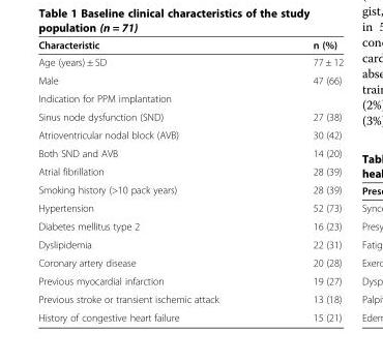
<table><thead><tr><td>Characteristic</td><td>n (%)</td></tr></thead><tbody><tr><td>Age (years) ± SD</td><td>77 ± 12</td></tr><tr><td>Male</td><td>47 (66)</td></tr><tr><td colspan="2">Indication for PPM implantation</td></tr><tr><td>Sinus node dysfunction (SND)</td><td>27 (38)</td></tr><tr><td>Atrioventricular nodal block (AVB)</td><td>30 (42)</td></tr><tr><td>Both SND and AVB</td><td>14 (20)</td></tr><tr><td>Atrial fibrillation</td><td>28 (39)</td></tr><tr><td>Smoking history (&gt;10 pack years)</td><td>28 (39)</td></tr><tr><td>Hypertension</td><td>52 (73)</td></tr><tr><td>Diabetes mellitus type 2</td><td>16 (23)</td></tr><tr><td>Dyslipidemia</td><td>22 (31)</td></tr><tr><td>Coronary artery disease</td><td>20 (28)</td></tr><tr><td>Previous myocardial infarction</td><td>19 (27)</td></tr><tr><td>Previous stroke or transient ischemic attack</td><td>13 (18)</td></tr><tr><td>History of congestive heart failure</td><td>15 (21)</td></tr></tbody></table>